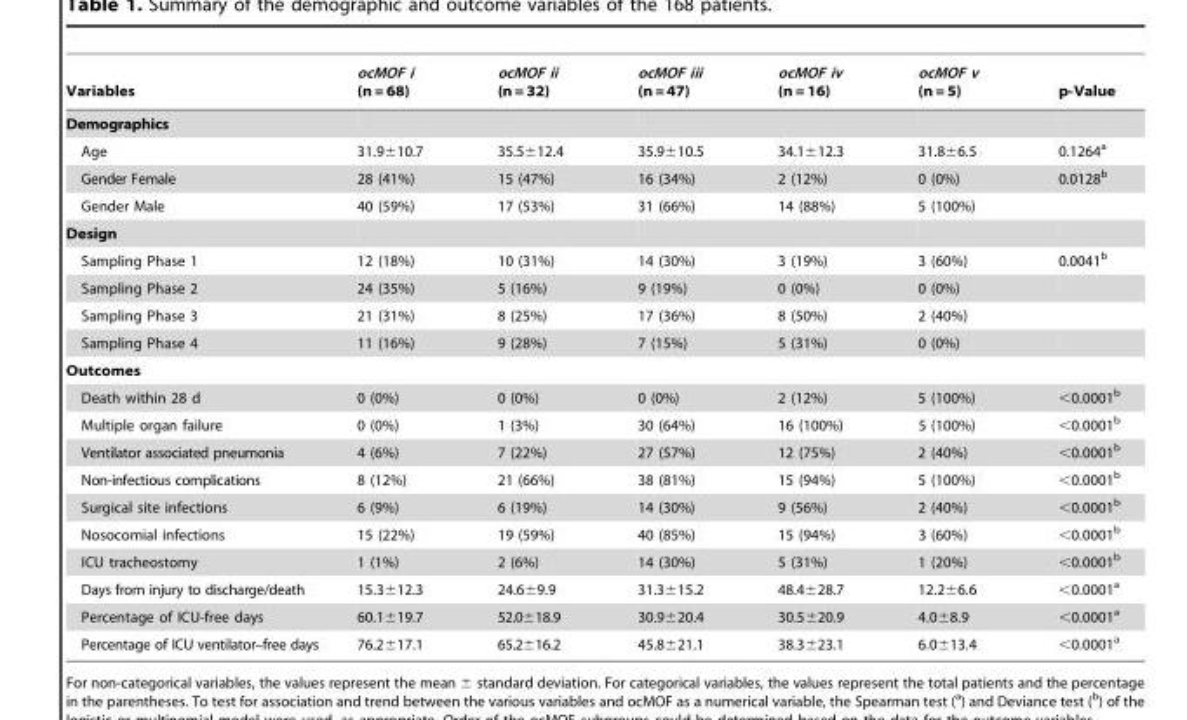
<table><thead><tr><td>Variables</td><td>ocMOF i (n = 68)</td><td>ocMOF ii (n = 32)</td><td>ocMOF iii (n = 47)</td><td>ocMOF iv (n = 16)</td><td>ocMOF v (n = 5)</td><td>p-Value</td></tr></thead><tbody><tr><td colspan="7">Demographics</td></tr><tr><td>Age</td><td>31.9±10.7</td><td>35.5±12.4</td><td>35.9±10.5</td><td>34.1±12.3</td><td>31.8±6.5</td><td>0.1264<sup>a</sup></td></tr><tr><td>Gender Female</td><td>28 (41%)</td><td>15 (47%)</td><td>16 (34%)</td><td>2 (12%)</td><td>0 (0%)</td><td>0.0128<sup>b</sup></td></tr><tr><td>Gender Male</td><td>40 (59%)</td><td>17 (53%)</td><td>31 (66%)</td><td>14 (88%)</td><td>5 (100%)</td><td></td></tr><tr><td colspan="7">Design</td></tr><tr><td>Sampling Phase 1</td><td>12 (18%)</td><td>10 (31%)</td><td>14 (30%)</td><td>3 (19%)</td><td>3 (60%)</td><td>0.0041<sup>b</sup></td></tr><tr><td>Sampling Phase 2</td><td>24 (35%)</td><td>5 (16%)</td><td>9 (19%)</td><td>0 (0%)</td><td>0 (0%)</td><td></td></tr><tr><td>Sampling Phase 3</td><td>21 (31%)</td><td>8 (25%)</td><td>17 (36%)</td><td>8 (50%)</td><td>2 (40%)</td><td></td></tr><tr><td>Sampling Phase 4</td><td>11 (16%)</td><td>9 (28%)</td><td>7 (15%)</td><td>5 (31%)</td><td>0 (0%)</td><td></td></tr><tr><td colspan="7">Outcomes</td></tr><tr><td>Death within 28 d</td><td>0 (0%)</td><td>0 (0%)</td><td>0 (0%)</td><td>2 (12%)</td><td>5 (100%)</td><td>&lt;0.0001<sup>b</sup></td></tr><tr><td>Multiple organ failure</td><td>0 (0%)</td><td>1 (3%)</td><td>30 (64%)</td><td>16 (100%)</td><td>5 (100%)</td><td>&lt;0.0001<sup>b</sup></td></tr><tr><td>Ventilator associated pneumonia</td><td>4 (6%)</td><td>7 (22%)</td><td>27 (57%)</td><td>12 (75%)</td><td>2 (40%)</td><td>&lt;0.0001<sup>b</sup></td></tr><tr><td>Non-infectious complications</td><td>8 (12%)</td><td>21 (66%)</td><td>38 (81%)</td><td>15 (94%)</td><td>5 (100%)</td><td>&lt;0.0001<sup>b</sup></td></tr><tr><td>Surgical site infections</td><td>6 (9%)</td><td>6 (19%)</td><td>14 (30%)</td><td>9 (56%)</td><td>2 (40%)</td><td>&lt;0.0001<sup>b</sup></td></tr><tr><td>Nosocomial infections</td><td>15 (22%)</td><td>19 (59%)</td><td>40 (85%)</td><td>15 (94%)</td><td>3 (60%)</td><td>&lt;0.0001<sup>b</sup></td></tr><tr><td>ICU tracheostomy</td><td>1 (1%)</td><td>2 (6%)</td><td>14 (30%)</td><td>5 (31%)</td><td>1 (20%)</td><td>&lt;0.0001<sup>b</sup></td></tr><tr><td>Days from injury to discharge/death</td><td>15.3±12.3</td><td>24.6±9.9</td><td>31.3±15.2</td><td>48.4±28.7</td><td>12.2±6.6</td><td>&lt;0.0001<sup>a</sup></td></tr><tr><td>Percentage of ICU-free days</td><td>60.1±19.7</td><td>52.0±18.9</td><td>30.9±20.4</td><td>30.5±20.9</td><td>4.0±8.9</td><td>&lt;0.0001<sup>a</sup></td></tr><tr><td>Percentage of ICU ventilator–free days</td><td>76.2±17.1</td><td>65.2±16.2</td><td>45.8±21.1</td><td>38.3±23.1</td><td>6.0±13.4</td><td>&lt;0.0001<sup>a</sup></td></tr></tbody></table>